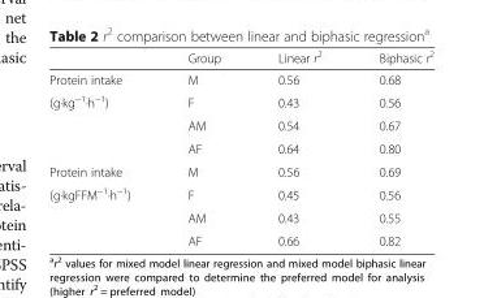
<table><thead><tr><td></td><td>Group</td><td>Linear r<sup>2</sup></td><td>Biphasic r<sup>2</sup></td></tr></thead><tbody><tr><td>Protein intake</td><td>M</td><td>0.56</td><td>0.68</td></tr><tr><td rowspan="3">(g·kg<sup>−1</sup>·h<sup>−1</sup>)</td><td>F</td><td>0.43</td><td>0.56</td></tr><tr><td>AM</td><td>0.54</td><td>0.67</td></tr><tr><td>AF</td><td>0.64</td><td>0.80</td></tr><tr><td>Protein intake</td><td>M</td><td>0.56</td><td>0.69</td></tr><tr><td rowspan="3">(g·kgFFM<sup>−1</sup>·h<sup>−1</sup>)</td><td>F</td><td>0.45</td><td>0.56</td></tr><tr><td>AM</td><td>0.43</td><td>0.55</td></tr><tr><td>AF</td><td>0.66</td><td>0.82</td></tr></tbody></table>